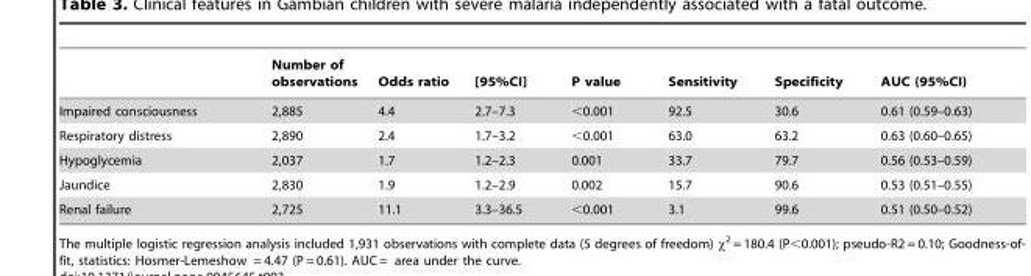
<table><thead><tr><td></td><td>Number of observations</td><td>Odds ratio</td><td>[95%CI]</td><td>P value</td><td>Sensitivity</td><td>Specificity</td><td>AUC (95%CI)</td></tr></thead><tbody><tr><td>Impaired consciousness</td><td>2,885</td><td>4.4</td><td>2.7–7.3</td><td>&lt;0.001</td><td>92.5</td><td>30.6</td><td>0.61 (0.59–0.63)</td></tr><tr><td>Respiratory distress</td><td>2,890</td><td>2.4</td><td>1.7–3.2</td><td>&lt;0.001</td><td>63.0</td><td>63.2</td><td>0.63 (0.60–0.65)</td></tr><tr><td>Hypoglycemia</td><td>2,037</td><td>1.7</td><td>1.2–2.3</td><td>0.001</td><td>33.7</td><td>79.7</td><td>0.56 (0.53–0.59)</td></tr><tr><td>Jaundice</td><td>2,830</td><td>1.9</td><td>1.2–2.9</td><td>0.002</td><td>15.7</td><td>90.6</td><td>0.53 (0.51–0.55)</td></tr><tr><td>Renal failure</td><td>2,725</td><td>11.1</td><td>3.3–36.5</td><td>&lt;0.001</td><td>3.1</td><td>99.6</td><td>0.51 (0.50–0.52)</td></tr></tbody></table>